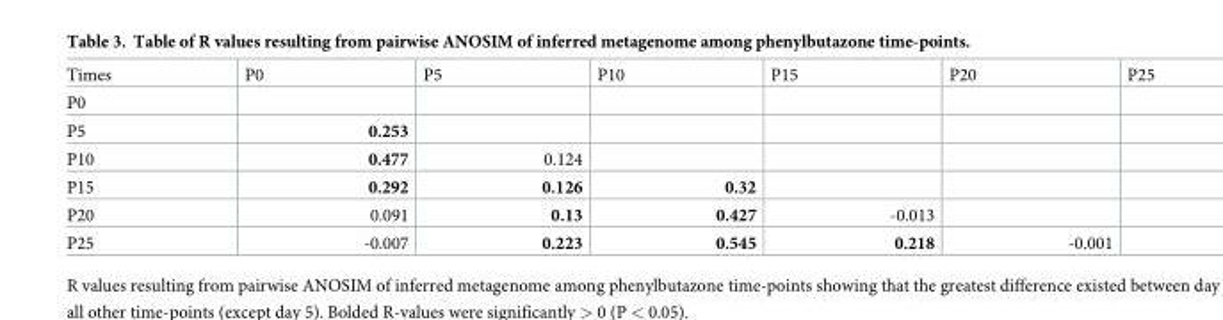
<table><tbody><tr><td>Times</td><td>P0</td><td>P5</td><td>P10</td><td>P15</td><td>P20</td><td>P25</td></tr><tr><td colspan="7">P0</td></tr><tr><td>P5</td><td>0.253</td><td></td><td></td><td></td><td></td><td></td></tr><tr><td>P10</td><td>0.477</td><td>0.124</td><td></td><td></td><td></td><td></td></tr><tr><td>P15</td><td>0.292</td><td>0.126</td><td>0.32</td><td></td><td></td><td></td></tr><tr><td>P20</td><td>0.091</td><td>0.13</td><td>0.427</td><td>-0.013</td><td></td><td></td></tr><tr><td>P25</td><td>-0.007</td><td>0.223</td><td>0.545</td><td>0.218</td><td>-0.001</td><td></td></tr></tbody></table>